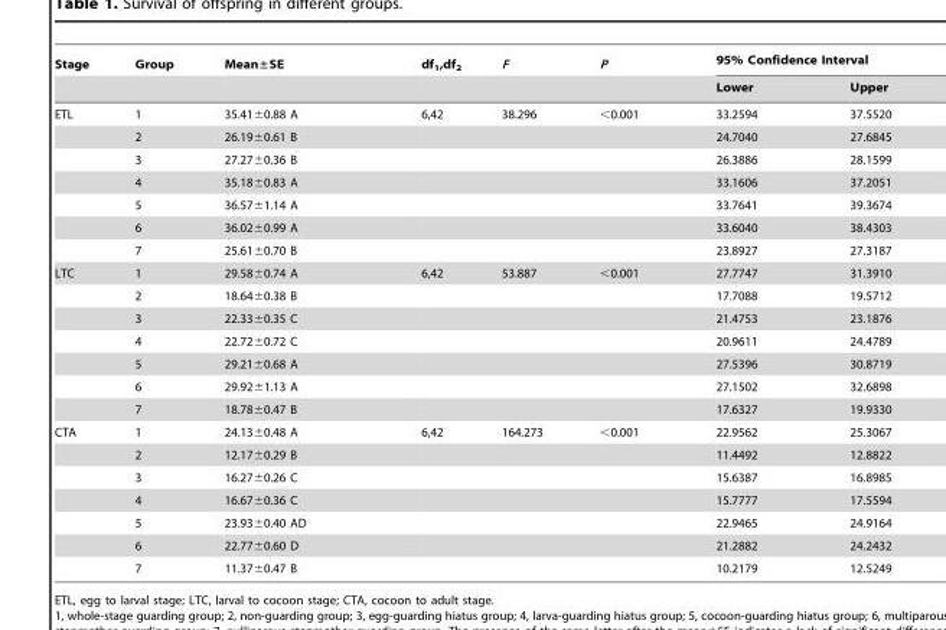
<table><thead><tr><td rowspan="2">Stage</td><td rowspan="2">Group</td><td rowspan="2">Mean±SE</td><td rowspan="2">df<sub>1</sub>,df<sub>2</sub></td><td rowspan="2">F</td><td rowspan="2">P</td><td colspan="2">95% Confidence Interval</td></tr><tr><td>Lower</td><td>Upper</td></tr></thead><tbody><tr><td rowspan="7">ETL</td><td>1</td><td>35.41±0.88 A</td><td>6,42</td><td>38.296</td><td>&lt;0.001</td><td>33.2594</td><td>37.5520</td></tr><tr><td>2</td><td>26.19±0.61 B</td><td></td><td></td><td></td><td>24.7040</td><td>27.6845</td></tr><tr><td>3</td><td>27.27±0.36 B</td><td></td><td></td><td></td><td>26.3886</td><td>28.1599</td></tr><tr><td>4</td><td>35.18±0.83 A</td><td></td><td></td><td></td><td>33.1606</td><td>37.2051</td></tr><tr><td>5</td><td>36.57±1.14 A</td><td></td><td></td><td></td><td>33.7641</td><td>39.3674</td></tr><tr><td>6</td><td>36.02±0.99 A</td><td></td><td></td><td></td><td>33.6040</td><td>38.4303</td></tr><tr><td>7</td><td>25.61±0.70 B</td><td></td><td></td><td></td><td>23.8927</td><td>27.3187</td></tr><tr><td rowspan="7">LTC</td><td>1</td><td>29.58±0.74 A</td><td>6,42</td><td>53.887</td><td>&lt;0.001</td><td>27.7747</td><td>31.3910</td></tr><tr><td>2</td><td>18.64±0.38 B</td><td></td><td></td><td></td><td>17.7088</td><td>19.5712</td></tr><tr><td>3</td><td>22.33±0.35 C</td><td></td><td></td><td></td><td>21.4753</td><td>23.1876</td></tr><tr><td>4</td><td>22.72±0.72 C</td><td></td><td></td><td></td><td>20.9611</td><td>24.4789</td></tr><tr><td>5</td><td>29.21±0.68 A</td><td></td><td></td><td></td><td>27.5396</td><td>30.8719</td></tr><tr><td>6</td><td>29.92±1.13 A</td><td></td><td></td><td></td><td>27.1502</td><td>32.6898</td></tr><tr><td>7</td><td>18.78±0.47 B</td><td></td><td></td><td></td><td>17.6327</td><td>19.9330</td></tr><tr><td rowspan="7">CTA</td><td>1</td><td>24.13±0.48 A</td><td>6,42</td><td>164.273</td><td>&lt;0.001</td><td>22.9562</td><td>25.3067</td></tr><tr><td>2</td><td>12.17±0.29 B</td><td></td><td></td><td></td><td>11.4492</td><td>12.8822</td></tr><tr><td>3</td><td>16.27±0.26 C</td><td></td><td></td><td></td><td>15.6387</td><td>16.8985</td></tr><tr><td>4</td><td>16.67±0.36 C</td><td></td><td></td><td></td><td>15.7777</td><td>17.5594</td></tr><tr><td>5</td><td>23.93±0.40 AD</td><td></td><td></td><td></td><td>22.9465</td><td>24.9164</td></tr><tr><td>6</td><td>22.77±0.60 D</td><td></td><td></td><td></td><td>21.2882</td><td>24.2432</td></tr><tr><td>7</td><td>11.37±0.47 B</td><td></td><td></td><td></td><td>10.2179</td><td>12.5249</td></tr></tbody></table>